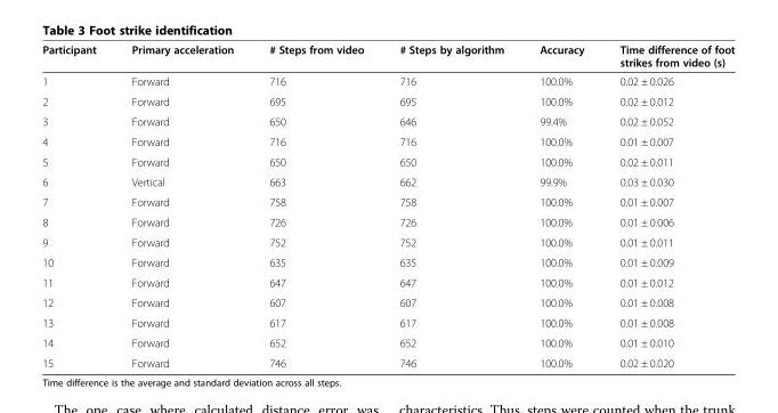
<table><thead><tr><td>Participant</td><td>Primary acceleration</td><td># Steps from video</td><td># Steps by algorithm</td><td>Accuracy</td><td>Time difference of foot strikes from video (s)</td></tr></thead><tbody><tr><td>1</td><td>Forward</td><td>716</td><td>716</td><td>100.0%</td><td>0.02 ± 0.026</td></tr><tr><td>2</td><td>Forward</td><td>695</td><td>695</td><td>100.0%</td><td>0.02 ± 0.012</td></tr><tr><td>3</td><td>Forward</td><td>650</td><td>646</td><td>99.4%</td><td>0.02 ± 0.052</td></tr><tr><td>4</td><td>Forward</td><td>716</td><td>716</td><td>100.0%</td><td>0.01 ± 0.007</td></tr><tr><td>5</td><td>Forward</td><td>650</td><td>650</td><td>100.0%</td><td>0.02 ± 0.011</td></tr><tr><td>6</td><td>Vertical</td><td>663</td><td>662</td><td>99.9%</td><td>0.03 ± 0.030</td></tr><tr><td>7</td><td>Forward</td><td>758</td><td>758</td><td>100.0%</td><td>0.01 ± 0.007</td></tr><tr><td>8</td><td>Forward</td><td>726</td><td>726</td><td>100.0%</td><td>0.01 ± 0.006</td></tr><tr><td>9</td><td>Forward</td><td>752</td><td>752</td><td>100.0%</td><td>0.01 ± 0.011</td></tr><tr><td>10</td><td>Forward</td><td>635</td><td>635</td><td>100.0%</td><td>0.01 ± 0.009</td></tr><tr><td>11</td><td>Forward</td><td>647</td><td>647</td><td>100.0%</td><td>0.01 ± 0.012</td></tr><tr><td>12</td><td>Forward</td><td>607</td><td>607</td><td>100.0%</td><td>0.01 ± 0.008</td></tr><tr><td>13</td><td>Forward</td><td>617</td><td>617</td><td>100.0%</td><td>0.01 ± 0.008</td></tr><tr><td>14</td><td>Forward</td><td>652</td><td>652</td><td>100.0%</td><td>0.01 ± 0.010</td></tr><tr><td>15</td><td>Forward</td><td>746</td><td>746</td><td>100.0%</td><td>0.02 ± 0.020</td></tr></tbody></table>